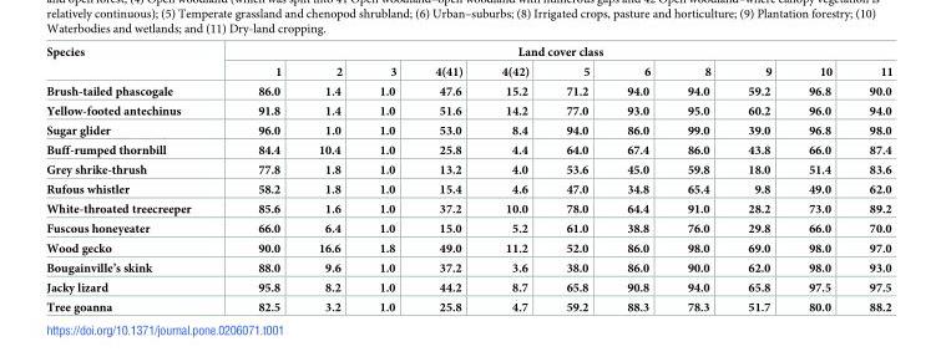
<table><thead><tr><td rowspan="2">Species</td><td colspan="11">Land cover class</td></tr><tr><td>1</td><td>2</td><td>3</td><td>4(41)</td><td>4(42)</td><td>5</td><td>6</td><td>8</td><td>9</td><td>10</td><td>11</td></tr></thead><tbody><tr><td>Brush-tailed phascogale</td><td>86.0</td><td>1.4</td><td>1.0</td><td>47.6</td><td>15.2</td><td>71.2</td><td>94.0</td><td>94.0</td><td>59.2</td><td>96.8</td><td>90.0</td></tr><tr><td>Yellow-footed antechinus</td><td>91.8</td><td>1.4</td><td>1.0</td><td>51.6</td><td>14.2</td><td>77.0</td><td>93.0</td><td>95.0</td><td>60.2</td><td>96.0</td><td>94.0</td></tr><tr><td>Sugar glider</td><td>96.0</td><td>1.0</td><td>1.0</td><td>53.0</td><td>8.4</td><td>94.0</td><td>86.0</td><td>99.0</td><td>39.0</td><td>96.8</td><td>98.0</td></tr><tr><td>Buff-rumped thornbill</td><td>84.4</td><td>10.4</td><td>1.0</td><td>25.8</td><td>4.4</td><td>64.0</td><td>67.4</td><td>86.0</td><td>43.8</td><td>66.0</td><td>87.4</td></tr><tr><td>Grey shrike-thrush</td><td>77.8</td><td>1.8</td><td>1.0</td><td>13.2</td><td>4.0</td><td>53.6</td><td>45.0</td><td>59.8</td><td>18.0</td><td>51.4</td><td>83.6</td></tr><tr><td>Rufous whistler</td><td>58.2</td><td>1.8</td><td>1.0</td><td>15.4</td><td>4.6</td><td>47.0</td><td>34.8</td><td>65.4</td><td>9.8</td><td>49.0</td><td>62.0</td></tr><tr><td>White-throated treecreeper</td><td>85.6</td><td>1.6</td><td>1.0</td><td>37.2</td><td>10.0</td><td>78.0</td><td>64.4</td><td>91.0</td><td>28.2</td><td>73.0</td><td>89.2</td></tr><tr><td>Fuscous honeyeater</td><td>66.0</td><td>6.4</td><td>1.0</td><td>15.0</td><td>5.2</td><td>61.0</td><td>38.8</td><td>76.0</td><td>29.8</td><td>66.0</td><td>70.0</td></tr><tr><td>Wood gecko</td><td>90.0</td><td>16.6</td><td>1.8</td><td>49.0</td><td>11.2</td><td>52.0</td><td>86.0</td><td>98.0</td><td>69.0</td><td>98.0</td><td>97.0</td></tr><tr><td>Bougainville’s skink</td><td>88.0</td><td>9.6</td><td>1.0</td><td>37.2</td><td>3.6</td><td>38.0</td><td>86.0</td><td>90.0</td><td>62.0</td><td>98.0</td><td>93.0</td></tr><tr><td>Jacky lizard</td><td>95.8</td><td>8.2</td><td>1.0</td><td>44.2</td><td>8.7</td><td>65.8</td><td>90.8</td><td>94.0</td><td>65.8</td><td>97.5</td><td>97.5</td></tr><tr><td>Tree goanna</td><td>82.5</td><td>3.2</td><td>1.0</td><td>25.8</td><td>4.7</td><td>59.2</td><td>88.3</td><td>78.3</td><td>51.7</td><td>80.0</td><td>88.2</td></tr></tbody></table>